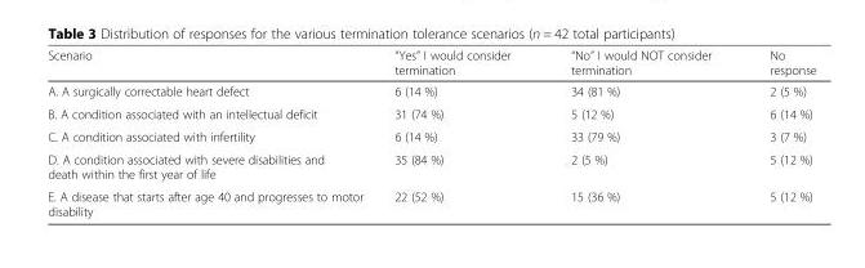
<table><thead><tr><td>Scenario</td><td>“Yes” I would consider termination</td><td>“No” I would NOT consider termination</td><td>No response</td></tr></thead><tbody><tr><td>A. A surgically correctable heart defect</td><td>6 (14 %)</td><td>34 (81 %)</td><td>2 (5 %)</td></tr><tr><td>B. A condition associated with an intellectual deficit</td><td>31 (74 %)</td><td>5 (12 %)</td><td>6 (14 %)</td></tr><tr><td>C. A condition associated with infertility</td><td>6 (14 %)</td><td>33 (79 %)</td><td>3 (7 %)</td></tr><tr><td>D. A condition associated with severe disabilities and death within the first year of life</td><td>35 (84 %)</td><td>2 (5 %)</td><td>5 (12 %)</td></tr><tr><td>E. A disease that starts after age 40 and progresses to motor disability</td><td>22 (52 %)</td><td>15 (36 %)</td><td>5 (12 %)</td></tr></tbody></table>